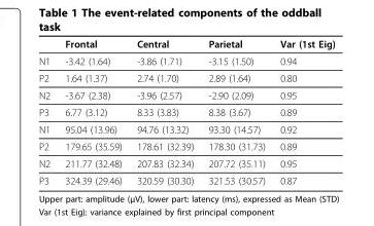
<table><thead><tr><td></td><td>Frontal</td><td>Central</td><td>Parietal</td><td>Var (1st Eig)</td></tr></thead><tbody><tr><td>N1</td><td>-3.42 (1.64)</td><td>-3.86 (1.71)</td><td>-3.15 (1.50)</td><td>0.94</td></tr><tr><td>P2</td><td>1.64 (1.37)</td><td>2.74 (1.70)</td><td>2.89 (1.64)</td><td>0.80</td></tr><tr><td>N2</td><td>-3.67 (2.38)</td><td>-3.96 (2.57)</td><td>-2.90 (2.09)</td><td>0.95</td></tr><tr><td>P3</td><td>6.77 (3.12)</td><td>8.33 (3.83)</td><td>8.38 (3.67)</td><td>0.89</td></tr><tr><td>N1</td><td>95.04 (13.96)</td><td>94.76 (13.32)</td><td>93.30 (14.57)</td><td>0.92</td></tr><tr><td>P2</td><td>179.65 (35.59)</td><td>178.61 (32.39)</td><td>178.30 (31.73)</td><td>0.89</td></tr><tr><td>N2</td><td>211.77 (32.48)</td><td>207.83 (32.34)</td><td>207.72 (35.11)</td><td>0.95</td></tr><tr><td>P3</td><td>324.39 (29.46)</td><td>320.59 (30.30)</td><td>321.53 (30.57)</td><td>0.87</td></tr></tbody></table>